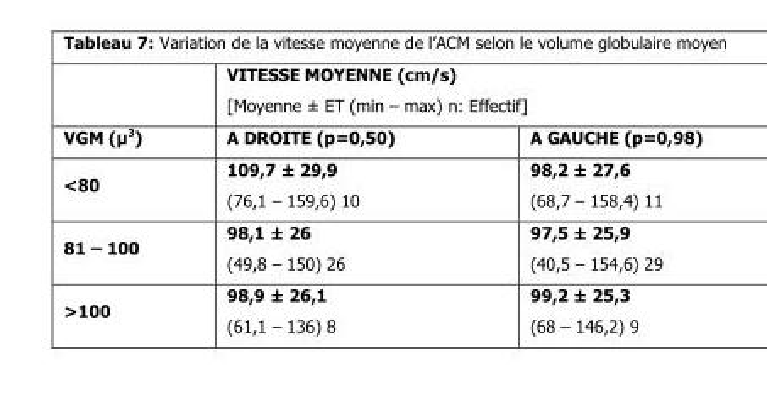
<table><thead><tr><td rowspan="2">VGM (μ<sup>3</sup>)</td><td colspan="2">VITESSE MOYENNE (cm/s) [Moyenne ± ET (min – max) n: Effectif]</td></tr><tr><td>A DROITE (p=0,50)</td><td>A GAUCHE (p=0,98)</td></tr></thead><tbody><tr><td>&lt;80</td><td>109,7 ± 29,9 (76,1 – 159,6) 10</td><td>98,2 ± 27,6 (68,7 – 158,4) 11</td></tr><tr><td>81 – 100</td><td>98,1 ± 26 (49,8 – 150) 26</td><td>97,5 ± 25,9 (40,5 – 154,6) 29</td></tr><tr><td>&gt;100</td><td>98,9 ± 26,1 (61,1 – 136) 8</td><td>99,2 ± 25,3 (68 – 146,2) 9</td></tr></tbody></table>